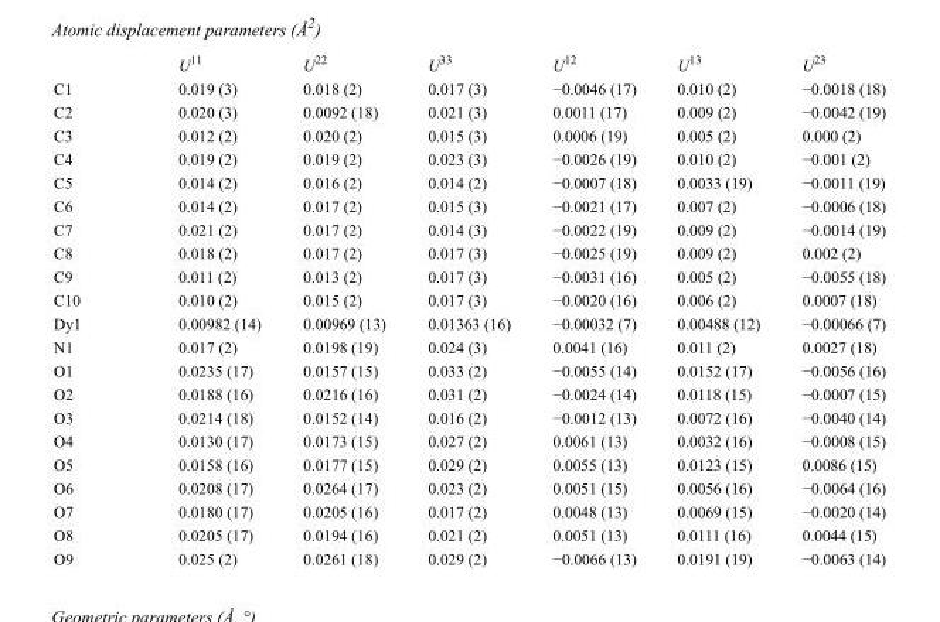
<table><thead><tr><td></td><td>U<sup>11</sup></td><td>U<sup>22</sup></td><td>U<sup>33</sup></td><td>U<sup>12</sup></td><td>U<sup>13</sup></td><td>U<sup>23</sup></td></tr></thead><tbody><tr><td>C1</td><td>0.019 (3)</td><td>0.018 (2)</td><td>0.017 (3)</td><td>−0.0046 (17)</td><td>0.010 (2)</td><td>−0.0018 (18)</td></tr><tr><td>C2</td><td>0.020 (3)</td><td>0.0092 (18)</td><td>0.021 (3)</td><td>0.0011 (17)</td><td>0.009 (2)</td><td>−0.0042 (19)</td></tr><tr><td>C3</td><td>0.012 (2)</td><td>0.020 (2)</td><td>0.015 (3)</td><td>0.0006 (19)</td><td>0.005 (2)</td><td>0.000 (2)</td></tr><tr><td>C4</td><td>0.019 (2)</td><td>0.019 (2)</td><td>0.023 (3)</td><td>−0.0026 (19)</td><td>0.010 (2)</td><td>−0.001 (2)</td></tr><tr><td>C5</td><td>0.014 (2)</td><td>0.016 (2)</td><td>0.014 (2)</td><td>−0.0007 (18)</td><td>0.0033 (19)</td><td>−0.0011 (19)</td></tr><tr><td>C6</td><td>0.014 (2)</td><td>0.017 (2)</td><td>0.015 (3)</td><td>−0.0021 (17)</td><td>0.007 (2)</td><td>−0.0006 (18)</td></tr><tr><td>C7</td><td>0.021 (2)</td><td>0.017 (2)</td><td>0.014 (3)</td><td>−0.0022 (19)</td><td>0.009 (2)</td><td>−0.0014 (19)</td></tr><tr><td>C8</td><td>0.018 (2)</td><td>0.017 (2)</td><td>0.017 (3)</td><td>−0.0025 (19)</td><td>0.009 (2)</td><td>0.002 (2)</td></tr><tr><td>C9</td><td>0.011 (2)</td><td>0.013 (2)</td><td>0.017 (3)</td><td>−0.0031 (16)</td><td>0.005 (2)</td><td>−0.0055 (18)</td></tr><tr><td>C10</td><td>0.010 (2)</td><td>0.015 (2)</td><td>0.017 (3)</td><td>−0.0020 (16)</td><td>0.006 (2)</td><td>0.0007 (18)</td></tr><tr><td>Dy1</td><td>0.00982 (14)</td><td>0.00969 (13)</td><td>0.01363 (16)</td><td>−0.00032 (7)</td><td>0.00488 (12)</td><td>−0.00066 (7)</td></tr><tr><td>N1</td><td>0.017 (2)</td><td>0.0198 (19)</td><td>0.024 (3)</td><td>0.0041 (16)</td><td>0.011 (2)</td><td>0.0027 (18)</td></tr><tr><td>O1</td><td>0.0235 (17)</td><td>0.0157 (15)</td><td>0.033 (2)</td><td>−0.0055 (14)</td><td>0.0152 (17)</td><td>−0.0056 (16)</td></tr><tr><td>O2</td><td>0.0188 (16)</td><td>0.0216 (16)</td><td>0.031 (2)</td><td>−0.0024 (14)</td><td>0.0118 (15)</td><td>−0.0007 (15)</td></tr><tr><td>O3</td><td>0.0214 (18)</td><td>0.0152 (14)</td><td>0.016 (2)</td><td>−0.0012 (13)</td><td>0.0072 (16)</td><td>−0.0040 (14)</td></tr><tr><td>O4</td><td>0.0130 (17)</td><td>0.0173 (15)</td><td>0.027 (2)</td><td>0.0061 (13)</td><td>0.0032 (16)</td><td>−0.0008 (15)</td></tr><tr><td>O5</td><td>0.0158 (16)</td><td>0.0177 (15)</td><td>0.029 (2)</td><td>0.0055 (13)</td><td>0.0123 (15)</td><td>0.0086 (15)</td></tr><tr><td>O6</td><td>0.0208 (17)</td><td>0.0264 (17)</td><td>0.023 (2)</td><td>0.0051 (15)</td><td>0.0056 (16)</td><td>−0.0064 (16)</td></tr><tr><td>O7</td><td>0.0180 (17)</td><td>0.0205 (16)</td><td>0.017 (2)</td><td>0.0048 (13)</td><td>0.0069 (15)</td><td>−0.0020 (14)</td></tr><tr><td>O8</td><td>0.0205 (17)</td><td>0.0194 (16)</td><td>0.021 (2)</td><td>0.0051 (13)</td><td>0.0111 (16)</td><td>0.0044 (15)</td></tr><tr><td>O9</td><td>0.025 (2)</td><td>0.0261 (18)</td><td>0.029 (2)</td><td>−0.0066 (13)</td><td>0.0191 (19)</td><td>−0.0063 (14)</td></tr></tbody></table>